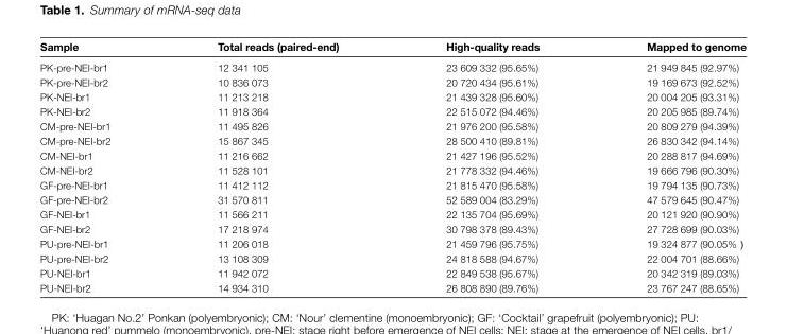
<table><thead><tr><td>Sample</td><td>Total reads (paired-end)</td><td>High-quality reads</td><td>Mapped to genome</td></tr></thead><tbody><tr><td>PK-pre-NEI-br1</td><td>12 341 105</td><td>23 609 332 (95.65%)</td><td>21 949 845 (92.97%)</td></tr><tr><td>PK-pre-NEI-br2</td><td>10 836 073</td><td>20 720 434 (95.61%)</td><td>19 169 673 (92.52%)</td></tr><tr><td>PK-NEI-br1</td><td>11 213 218</td><td>21 439 328 (95.60%)</td><td>20 004 205 (93.31%)</td></tr><tr><td>PK-NEI-br2</td><td>11 918 364</td><td>22 515 072 (94.46%)</td><td>20 205 985 (89.74%)</td></tr><tr><td>CM-pre-NEI-br1</td><td>11 495 826</td><td>21 976 200 (95.58%)</td><td>20 809 279 (94.39%)</td></tr><tr><td>CM-pre-NEI-br2</td><td>15 867 345</td><td>28 500 410 (89.81%)</td><td>26 830 342 (94.14%)</td></tr><tr><td>CM-NEI-br1</td><td>11 216 662</td><td>21 427 196 (95.52%)</td><td>20 288 817 (94.69%)</td></tr><tr><td>CM-NEI-br2</td><td>11 528 101</td><td>21 778 332 (94.46%)</td><td>19 666 796 (90.30%)</td></tr><tr><td>GF-pre-NEI-br1</td><td>11 412 112</td><td>21 815 470 (95.58%)</td><td>19 794 135 (90.73%)</td></tr><tr><td>GF-pre-NEI-br2</td><td>31 570 811</td><td>52 589 004 (83.29%)</td><td>47 579 645 (90.47%)</td></tr><tr><td>GF-NEI-br1</td><td>11 566 211</td><td>22 135 704 (95.69%)</td><td>20 121 920 (90.90%)</td></tr><tr><td>GF-NEI-br2</td><td>17 218 974</td><td>30 798 378 (89.43%)</td><td>27 728 699 (90.03%)</td></tr><tr><td>PU-pre-NEI-br1</td><td>11 206 018</td><td>21 459 796 (95.75%)</td><td>19 324 877 (90.05%）</td></tr><tr><td>PU-pre-NEI-br2</td><td>13 108 309</td><td>24 818 588 (94.67%)</td><td>22 004 701 (88.66%)</td></tr><tr><td>PU-NEI-br1</td><td>11 942 072</td><td>22 849 538 (95.67%)</td><td>20 342 319 (89.03%)</td></tr><tr><td>PU-NEI-br2</td><td>14 934 310</td><td>26 808 890 (89.76%)</td><td>23 767 247 (88.65%)</td></tr></tbody></table>